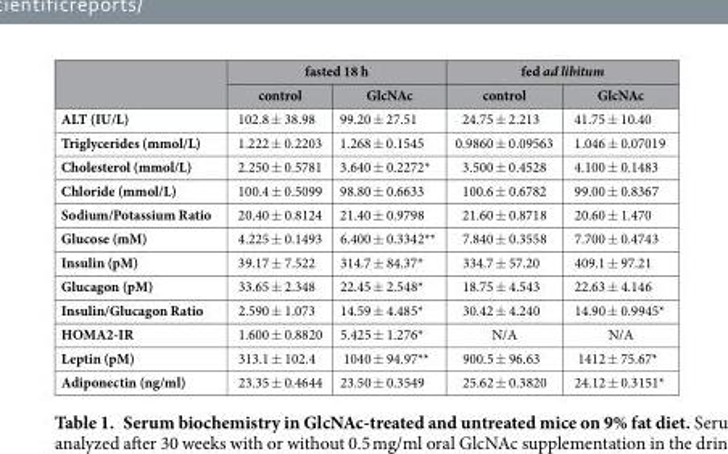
<table><thead><tr><td rowspan="2"></td><td colspan="2">fasted 18 h</td><td colspan="2">fed ad libitum</td></tr><tr><td>control</td><td>GlcNAc</td><td>control</td><td>GlcNAc</td></tr></thead><tbody><tr><td>ALT (IU/L)</td><td>102.8 ± 38.98</td><td>99.20 ± 27.51</td><td>24.75 ± 2.213</td><td>41.75 ± 10.40</td></tr><tr><td>Triglycerides (mmol/L)</td><td>1.222 ± 0.2203</td><td>1.268 ± 0.1545</td><td>0.9860 ± 0.09563</td><td>1.046 ± 0.07019</td></tr><tr><td>Cholesterol (mmol/L)</td><td>2.250 ± 0.5781</td><td>3.640 ± 0.2272*</td><td>3.500 ± 0.4528</td><td>4.100 ± 0.1483</td></tr><tr><td>Chloride (mmol/L)</td><td>100.4 ± 0.5099</td><td>98.80 ± 0.6633</td><td>100.6 ± 0.6782</td><td>99.00 ± 0.8367</td></tr><tr><td>Sodium/Potassium Ratio</td><td>20.40 ± 0.8124</td><td>21.40 ± 0.9798</td><td>21.60 ± 0.8718</td><td>20.60 ± 1.470</td></tr><tr><td>Glucose (mM)</td><td>4.225 ± 0.1493</td><td>6.400 ± 0.3342**</td><td>7.840 ± 0.3558</td><td>7.700 ± 0.4743</td></tr><tr><td>Insulin (pM)</td><td>39.17 ± 7.522</td><td>314.7 ± 84.37*</td><td>334.7 ± 57.20</td><td>409.1 ± 97.21</td></tr><tr><td>Glucagon (pM)</td><td>33.65 ± 2.348</td><td>22.45 ± 2.548*</td><td>18.75 ± 4.543</td><td>22.63 ± 4.146</td></tr><tr><td>Insulin/Glucagon Ratio</td><td>2.590 ± 1.073</td><td>14.59 ± 4.485*</td><td>30.42 ± 4.240</td><td>14.90 ± 0.9945*</td></tr><tr><td>HOMA2-IR</td><td>1.600 ± 0.8820</td><td>5.425 ± 1.276*</td><td>N/A</td><td>N/A</td></tr><tr><td>Leptin (pM)</td><td>313.1 ± 102.4</td><td>1040 ± 94.97**</td><td>900.5 ± 96.63</td><td>1412 ± 75.67*</td></tr><tr><td>Adiponectin (ng/ml)</td><td>23.35 ± 0.4644</td><td>23.50 ± 0.3549</td><td>25.62 ± 0.3820</td><td>24.12 ± 0.3151*</td></tr></tbody></table>